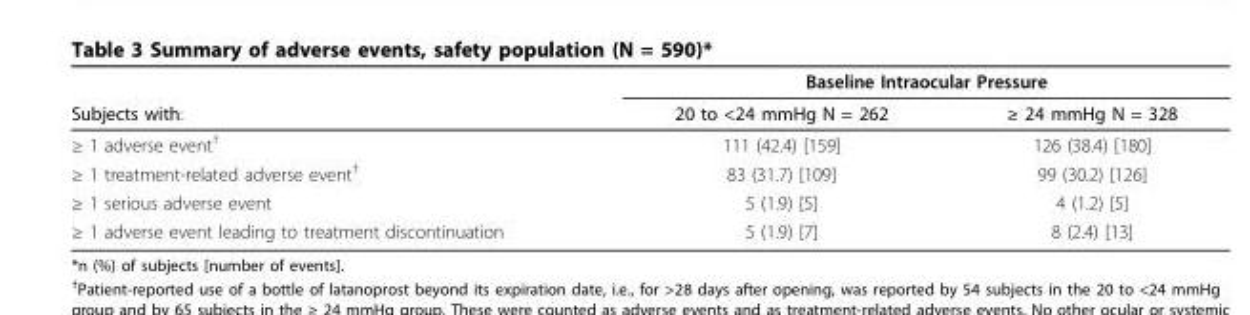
<table><thead><tr><td rowspan="2">Subjects with:</td><td colspan="2">Baseline Intraocular Pressure</td></tr><tr><td>20 to &lt;24 mmHg N = 262</td><td>≥ 24 mmHg N = 328</td></tr></thead><tbody><tr><td>≥ 1 adverse event<sup>†</sup></td><td>111 (42.4) [159]</td><td>126 (38.4) [180]</td></tr><tr><td>≥ 1 treatment-related adverse event<sup>†</sup></td><td>83 (31.7) [109]</td><td>99 (30.2) [126]</td></tr><tr><td>≥ 1 serious adverse event</td><td>5 (1.9) [5]</td><td>4 (1.2) [5]</td></tr><tr><td>≥ 1 adverse event leading to treatment discontinuation</td><td>5 (1.9) [7]</td><td>8 (2.4) [13]</td></tr></tbody></table>